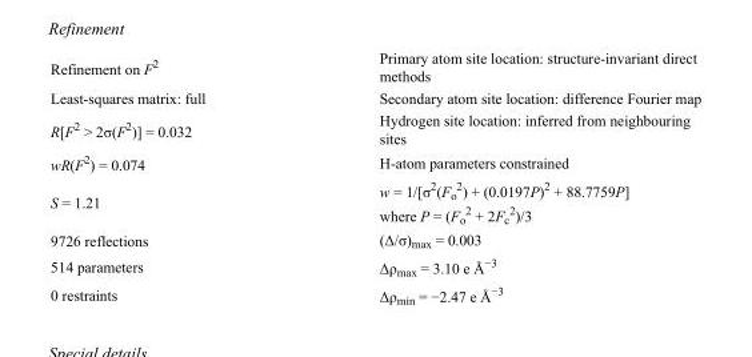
<table><tbody><tr><td>Refinement on F<sup>2</sup></td><td>Primary atom site location: structure-invariant direct methods</td></tr><tr><td>Least-squares matrix: full</td><td>Secondary atom site location: difference Fourier map</td></tr><tr><td>R[F<sup>2</sup> &gt; 2σ(F<sup>2</sup>)] = 0.032</td><td>Hydrogen site location: inferred from neighbouring sites</td></tr><tr><td>wR(F<sup>2</sup>) = 0.074</td><td>H-atom parameters constrained</td></tr><tr><td>S = 1.21</td><td>w = 1/[σ<sup>2</sup>(F<sub>o</sub> <sup>2</sup>) + (0.0197P)<sup>2</sup> + 88.7759P] where P = (F<sub>o</sub> <sup>2</sup> + 2F<sub>c</sub> <sup>2</sup>)/3</td></tr><tr><td>9726 reflections</td><td>(Δ/σ)<sub>max</sub> = 0.003</td></tr><tr><td>514 parameters</td><td>Δρ<sub>max</sub> = 3.10 e Å<sup>−3</sup></td></tr><tr><td>0 restraints</td><td>Δρ<sub>min</sub> = −2.47 e Å<sup>−3</sup></td></tr></tbody></table>